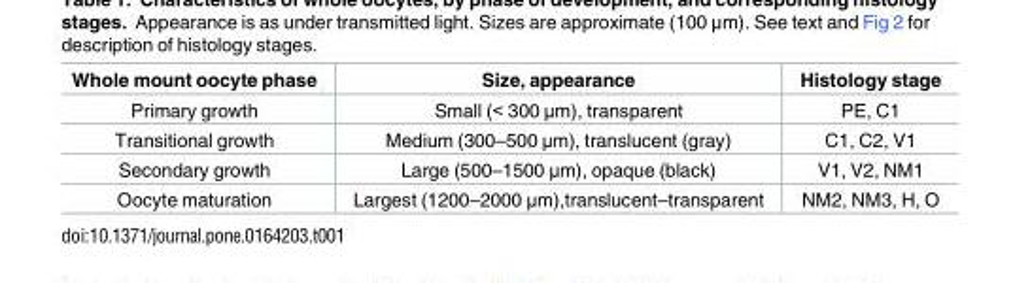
<table><thead><tr><td>Whole mount oocyte phase</td><td>Size, appearance</td><td>Histology stage</td></tr></thead><tbody><tr><td>Primary growth</td><td>Small (&lt; 300 μm), transparent</td><td>PE, C1</td></tr><tr><td>Transitional growth</td><td>Medium (300–500 μm), translucent (gray)</td><td>C1, C2, V1</td></tr><tr><td>Secondary growth</td><td>Large (500–1500 μm), opaque (black)</td><td>V1, V2, NM1</td></tr><tr><td>Oocyte maturation</td><td>Largest (1200–2000 μm),translucent–transparent</td><td>NM2, NM3, H, O</td></tr></tbody></table>